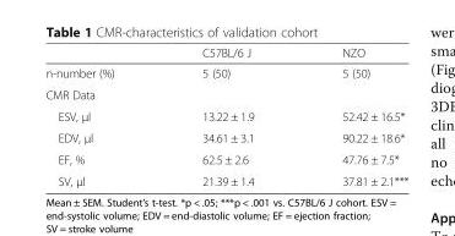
<table><thead><tr><td></td><td>C57BL/6 J</td><td>NZO</td></tr></thead><tbody><tr><td>n-number (%)</td><td>5 (50)</td><td>5 (50)</td></tr><tr><td colspan="3">CMR Data</td></tr><tr><td>ESV, μl</td><td>13.22 ± 1.9</td><td>52.42 ± 16.5*</td></tr><tr><td>EDV, μl</td><td>34.61 ± 3.1</td><td>90.22 ± 18.6*</td></tr><tr><td>EF, %</td><td>62.5 ± 2.6</td><td>47.76 ± 7.5*</td></tr><tr><td>SV, μl</td><td>21.39 ± 1.4</td><td>37.81 ± 2.1***</td></tr></tbody></table>